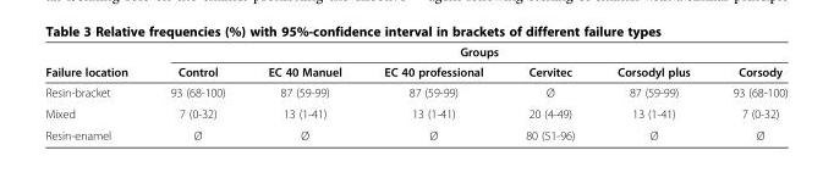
<table><thead><tr><td rowspan="2">Failure location</td><td colspan="6">Groups</td></tr><tr><td>Control</td><td>EC 40 Manuel</td><td>EC 40 professional</td><td>Cervitec</td><td>Corsodyl plus</td><td>Corsody</td></tr></thead><tbody><tr><td>Resin-bracket</td><td>93 (68-100)</td><td>87 (59-99)</td><td>87 (59-99)</td><td>Ø</td><td>87 (59-99)</td><td>93 (68-100)</td></tr><tr><td>Mixed</td><td>7 (0-32)</td><td>13 (1-41)</td><td>13 (1-41)</td><td>20 (4-49)</td><td>13 (1-41)</td><td>7 (0-32)</td></tr><tr><td>Resin-enamel</td><td>Ø</td><td>Ø</td><td>Ø</td><td>80 (51-96)</td><td>Ø</td><td>Ø</td></tr></tbody></table>